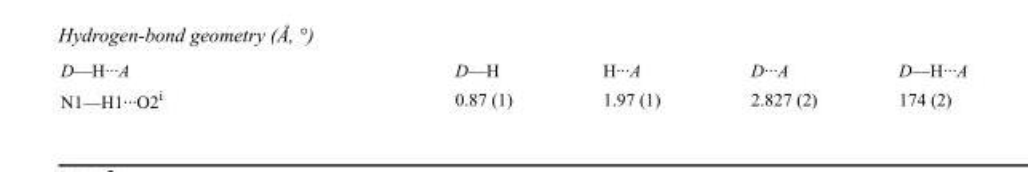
<table><tbody><tr><td>D—H···A</td><td>D—H</td><td>H···A</td><td>D···A</td><td>D—H···A</td></tr><tr><td>N1—H1···O2<sup>i</sup></td><td>0.87 (1)</td><td>1.97 (1)</td><td>2.827 (2)</td><td>174 (2)</td></tr></tbody></table>